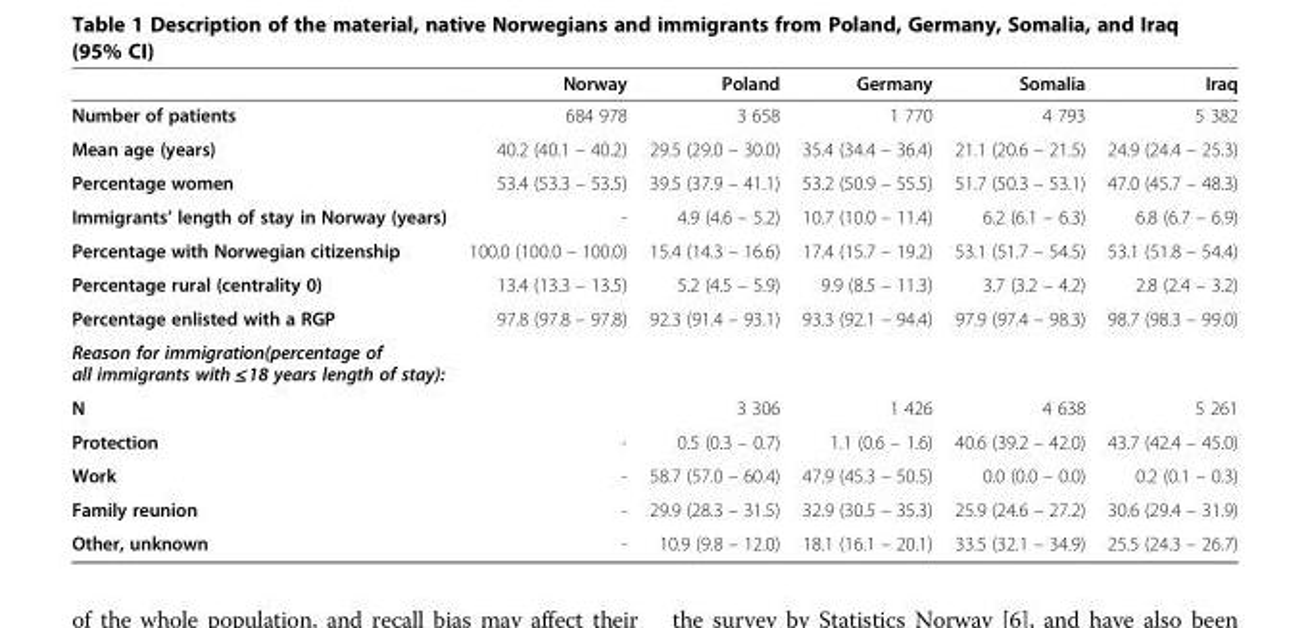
<table><thead><tr><td></td><td>Norway</td><td>Poland</td><td>Germany</td><td>Somalia</td><td>Iraq</td></tr></thead><tbody><tr><td>Number of patients</td><td>684 978</td><td>3 658</td><td>1 770</td><td>4 793</td><td>5 382</td></tr><tr><td>Mean age (years)</td><td>40.2 (40.1 – 40.2)</td><td>29.5 (29.0 – 30.0)</td><td>35.4 (34.4 – 36.4)</td><td>21.1 (20.6 – 21.5)</td><td>24.9 (24.4 – 25.3)</td></tr><tr><td>Percentage women</td><td>53.4 (53.3 – 53.5)</td><td>39.5 (37.9 – 41.1)</td><td>53.2 (50.9 – 55.5)</td><td>51.7 (50.3 – 53.1)</td><td>47.0 (45.7 – 48.3)</td></tr><tr><td>Immigrants’ length of stay in Norway (years)</td><td>-</td><td>4.9 (4.6 – 5.2)</td><td>10.7 (10.0 – 11.4)</td><td>6.2 (6.1 – 6.3)</td><td>6.8 (6.7 – 6.9)</td></tr><tr><td>Percentage with Norwegian citizenship</td><td>100.0 (100.0 – 100.0)</td><td>15.4 (14.3 – 16.6)</td><td>17.4 (15.7 – 19.2)</td><td>53.1 (51.7 – 54.5)</td><td>53.1 (51.8 – 54.4)</td></tr><tr><td>Percentage rural (centrality 0)</td><td>13.4 (13.3 – 13.5)</td><td>5.2 (4.5 – 5.9)</td><td>9.9 (8.5 – 11.3)</td><td>3.7 (3.2 – 4.2)</td><td>2.8 (2.4 – 3.2)</td></tr><tr><td>Percentage enlisted with a RGP</td><td>97.8 (97.8 – 97.8)</td><td>92.3 (91.4 – 93.1)</td><td>93.3 (92.1 – 94.4)</td><td>97.9 (97.4 – 98.3)</td><td>98.7 (98.3 – 99.0)</td></tr><tr><td colspan="6">Reason for immigration(percentage of all immigrants with ≤ 18 years length of stay):</td></tr><tr><td>N</td><td></td><td>3 306</td><td>1 426</td><td>4 638</td><td>5 261</td></tr><tr><td>Protection</td><td>-</td><td>0.5 (0.3 – 0.7)</td><td>1.1 (0.6 – 1.6)</td><td>40.6 (39.2 – 42.0)</td><td>43.7 (42.4 – 45.0)</td></tr><tr><td>Work</td><td>-</td><td>58.7 (57.0 – 60.4)</td><td>47.9 (45.3 – 50.5)</td><td>0.0 (0.0 – 0.0)</td><td>0.2 (0.1 – 0.3)</td></tr><tr><td>Family reunion</td><td>-</td><td>29.9 (28.3 – 31.5)</td><td>32.9 (30.5 – 35.3)</td><td>25.9 (24.6 – 27.2)</td><td>30.6 (29.4 – 31.9)</td></tr><tr><td>Other, unknown</td><td>-</td><td>10.9 (9.8 – 12.0)</td><td>18.1 (16.1 – 20.1)</td><td>33.5 (32.1 – 34.9)</td><td>25.5 (24.3 – 26.7)</td></tr></tbody></table>